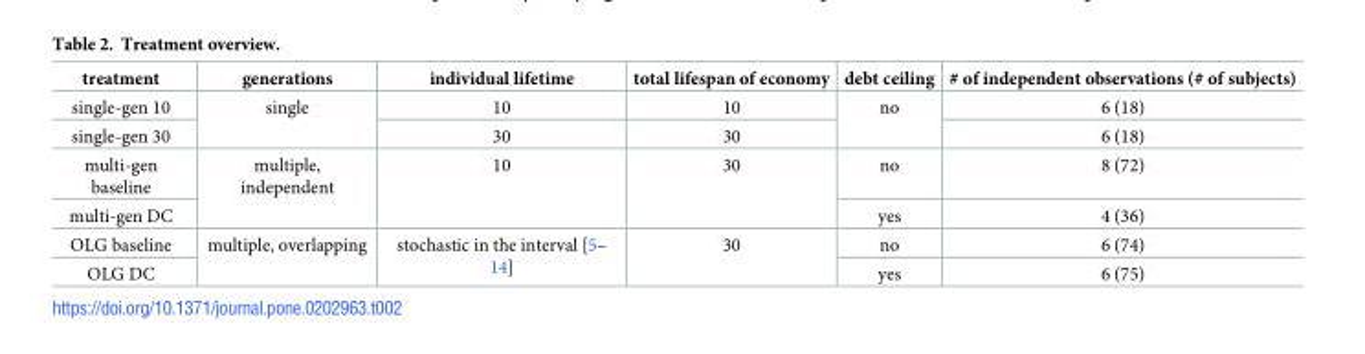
<table><thead><tr><td>treatment</td><td>generations</td><td>individual lifetime</td><td>total lifespan of economy</td><td>debt ceiling</td><td># of independent observations (# of subjects)</td></tr></thead><tbody><tr><td>single-gen 10</td><td rowspan="2">single</td><td>10</td><td>10</td><td rowspan="2">no</td><td>6 (18)</td></tr><tr><td>single-gen 30</td><td>30</td><td>30</td><td>6 (18)</td></tr><tr><td>multi-gen baseline</td><td rowspan="2">multiple, independent</td><td rowspan="2">10</td><td rowspan="2">30</td><td>no</td><td>8 (72)</td></tr><tr><td>multi-gen DC</td><td>yes</td><td>4 (36)</td></tr><tr><td>OLG baseline</td><td rowspan="2">multiple, overlapping</td><td rowspan="2">stochastic in the interval [5– 14]</td><td rowspan="2">30</td><td>no</td><td>6 (74)</td></tr><tr><td>OLG DC</td><td>yes</td><td>6 (75)</td></tr></tbody></table>